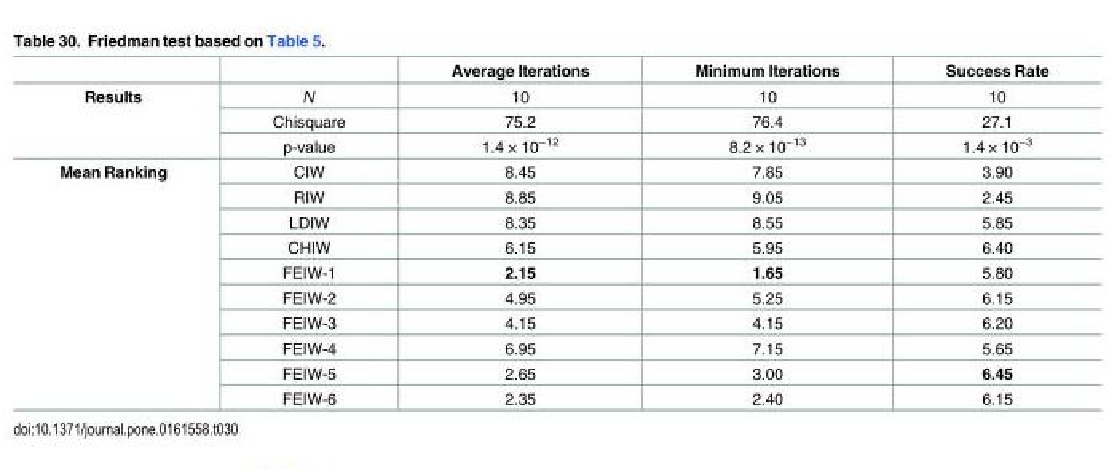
<table><thead><tr><td></td><td></td><td>Average Iterations</td><td>Minimum Iterations</td><td>Success Rate</td></tr></thead><tbody><tr><td rowspan="3">Results</td><td>N</td><td>10</td><td>10</td><td>10</td></tr><tr><td>Chisquare</td><td>75.2</td><td>76.4</td><td>27.1</td></tr><tr><td>p-value</td><td>1.4 × 10<sup>−12</sup></td><td>8.2 × 10<sup>−13</sup></td><td>1.4 × 10<sup>−3</sup></td></tr><tr><td rowspan="10">Mean Ranking</td><td>CIW</td><td>8.45</td><td>7.85</td><td>3.90</td></tr><tr><td>RIW</td><td>8.85</td><td>9.05</td><td>2.45</td></tr><tr><td>LDIW</td><td>8.35</td><td>8.55</td><td>5.85</td></tr><tr><td>CHIW</td><td>6.15</td><td>5.95</td><td>6.40</td></tr><tr><td>FEIW-1</td><td>2.15</td><td>1.65</td><td>5.80</td></tr><tr><td>FEIW-2</td><td>4.95</td><td>5.25</td><td>6.15</td></tr><tr><td>FEIW-3</td><td>4.15</td><td>4.15</td><td>6.20</td></tr><tr><td>FEIW-4</td><td>6.95</td><td>7.15</td><td>5.65</td></tr><tr><td>FEIW-5</td><td>2.65</td><td>3.00</td><td>6.45</td></tr><tr><td>FEIW-6</td><td>2.35</td><td>2.40</td><td>6.15</td></tr></tbody></table>